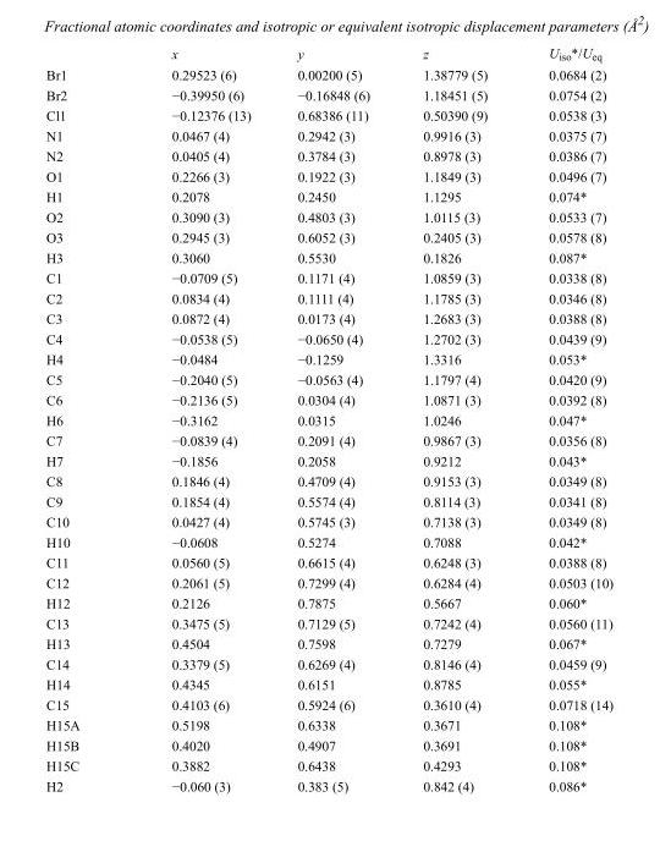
<table><thead><tr><td></td><td>x</td><td>y</td><td>z</td><td>U<sub>iso</sub>*/U<sub>eq</sub></td></tr></thead><tbody><tr><td>Br1</td><td>0.29523 (6)</td><td>0.00200 (5)</td><td>1.38779 (5)</td><td>0.0684 (2)</td></tr><tr><td>Br2</td><td>−0.39950 (6)</td><td>−0.16848 (6)</td><td>1.18451 (5)</td><td>0.0754 (2)</td></tr><tr><td>Cl1</td><td>−0.12376 (13)</td><td>0.68386 (11)</td><td>0.50390 (9)</td><td>0.0538 (3)</td></tr><tr><td>N1</td><td>0.0467 (4)</td><td>0.2942 (3)</td><td>0.9916 (3)</td><td>0.0375 (7)</td></tr><tr><td>N2</td><td>0.0405 (4)</td><td>0.3784 (3)</td><td>0.8978 (3)</td><td>0.0386 (7)</td></tr><tr><td>O1</td><td>0.2266 (3)</td><td>0.1922 (3)</td><td>1.1849 (3)</td><td>0.0496 (7)</td></tr><tr><td>H1</td><td>0.2078</td><td>0.2450</td><td>1.1295</td><td>0.074*</td></tr><tr><td>O2</td><td>0.3090 (3)</td><td>0.4803 (3)</td><td>1.0115 (3)</td><td>0.0533 (7)</td></tr><tr><td>O3</td><td>0.2945 (3)</td><td>0.6052 (3)</td><td>0.2405 (3)</td><td>0.0578 (8)</td></tr><tr><td>H3</td><td>0.3060</td><td>0.5530</td><td>0.1826</td><td>0.087*</td></tr><tr><td>C1</td><td>−0.0709 (5)</td><td>0.1171 (4)</td><td>1.0859 (3)</td><td>0.0338 (8)</td></tr><tr><td>C2</td><td>0.0834 (4)</td><td>0.1111 (4)</td><td>1.1785 (3)</td><td>0.0346 (8)</td></tr><tr><td>C3</td><td>0.0872 (4)</td><td>0.0173 (4)</td><td>1.2683 (3)</td><td>0.0388 (8)</td></tr><tr><td>C4</td><td>−0.0538 (5)</td><td>−0.0650 (4)</td><td>1.2702 (3)</td><td>0.0439 (9)</td></tr><tr><td>H4</td><td>−0.0484</td><td>−0.1259</td><td>1.3316</td><td>0.053*</td></tr><tr><td>C5</td><td>−0.2040 (5)</td><td>−0.0563 (4)</td><td>1.1797 (4)</td><td>0.0420 (9)</td></tr><tr><td>C6</td><td>−0.2136 (5)</td><td>0.0304 (4)</td><td>1.0871 (3)</td><td>0.0392 (8)</td></tr><tr><td>H6</td><td>−0.3162</td><td>0.0315</td><td>1.0246</td><td>0.047*</td></tr><tr><td>C7</td><td>−0.0839 (4)</td><td>0.2091 (4)</td><td>0.9867 (3)</td><td>0.0356 (8)</td></tr><tr><td>H7</td><td>−0.1856</td><td>0.2058</td><td>0.9212</td><td>0.043*</td></tr><tr><td>C8</td><td>0.1846 (4)</td><td>0.4709 (4)</td><td>0.9153 (3)</td><td>0.0349 (8)</td></tr><tr><td>C9</td><td>0.1854 (4)</td><td>0.5574 (4)</td><td>0.8114 (3)</td><td>0.0341 (8)</td></tr><tr><td>C10</td><td>0.0427 (4)</td><td>0.5745 (3)</td><td>0.7138 (3)</td><td>0.0349 (8)</td></tr><tr><td>H10</td><td>−0.0608</td><td>0.5274</td><td>0.7088</td><td>0.042*</td></tr><tr><td>C11</td><td>0.0560 (5)</td><td>0.6615 (4)</td><td>0.6248 (3)</td><td>0.0388 (8)</td></tr><tr><td>C12</td><td>0.2061 (5)</td><td>0.7299 (4)</td><td>0.6284 (4)</td><td>0.0503 (10)</td></tr><tr><td>H12</td><td>0.2126</td><td>0.7875</td><td>0.5667</td><td>0.060*</td></tr><tr><td>C13</td><td>0.3475 (5)</td><td>0.7129 (5)</td><td>0.7242 (4)</td><td>0.0560 (11)</td></tr><tr><td>H13</td><td>0.4504</td><td>0.7598</td><td>0.7279</td><td>0.067*</td></tr><tr><td>C14</td><td>0.3379 (5)</td><td>0.6269 (4)</td><td>0.8146 (4)</td><td>0.0459 (9)</td></tr><tr><td>H14</td><td>0.4345</td><td>0.6151</td><td>0.8785</td><td>0.055*</td></tr><tr><td>C15</td><td>0.4103 (6)</td><td>0.5924 (6)</td><td>0.3610 (4)</td><td>0.0718 (14)</td></tr><tr><td>H15A</td><td>0.5198</td><td>0.6338</td><td>0.3671</td><td>0.108*</td></tr><tr><td>H15B</td><td>0.4020</td><td>0.4907</td><td>0.3691</td><td>0.108*</td></tr><tr><td>H15C</td><td>0.3882</td><td>0.6438</td><td>0.4293</td><td>0.108*</td></tr><tr><td>H2</td><td>−0.060 (3)</td><td>0.383 (5)</td><td>0.842 (4)</td><td>0.086*</td></tr></tbody></table>